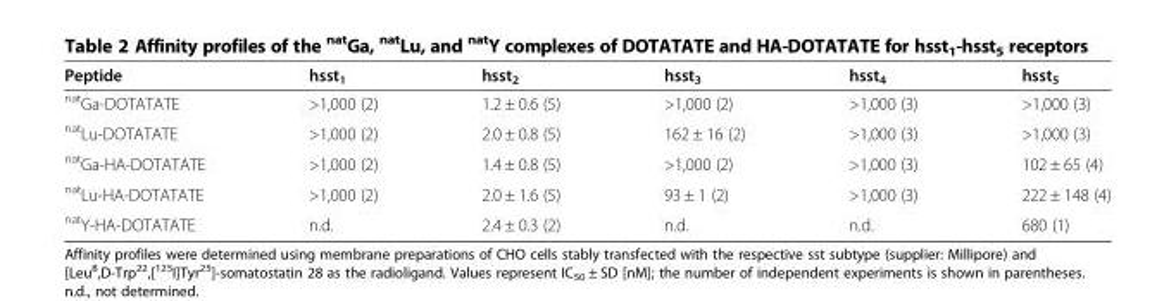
<table><thead><tr><td>Peptide</td><td>hsst<sub>1</sub></td><td>hsst<sub>2</sub></td><td>hsst<sub>3</sub></td><td>hsst<sub>4</sub></td><td>hsst<sub>5</sub></td></tr></thead><tbody><tr><td><sup>nat</sup>Ga-DOTATATE</td><td>&gt;1,000 (2)</td><td>1.2 ± 0.6 (5)</td><td>&gt;1,000 (2)</td><td>&gt;1,000 (3)</td><td>&gt;1,000 (3)</td></tr><tr><td><sup>nat</sup>Lu-DOTATATE</td><td>&gt;1,000 (2)</td><td>2.0 ± 0.8 (5)</td><td>162 ± 16 (2)</td><td>&gt;1,000 (3)</td><td>&gt;1,000 (3)</td></tr><tr><td><sup>nat</sup>Ga-HA-DOTATATE</td><td>&gt;1,000 (2)</td><td>1.4 ± 0.8 (5)</td><td>&gt;1,000 (2)</td><td>&gt;1,000 (3)</td><td>102 ± 65 (4)</td></tr><tr><td><sup>nat</sup>Lu-HA-DOTATATE</td><td>&gt;1,000 (2)</td><td>2.0 ± 1.6 (5)</td><td>93 ± 1 (2)</td><td>&gt;1,000 (3)</td><td>222 ± 148 (4)</td></tr><tr><td><sup>nat</sup>Y-HA-DOTATATE</td><td>n.d.</td><td>2.4 ± 0.3 (2)</td><td>n.d.</td><td>n.d.</td><td>680 (1)</td></tr></tbody></table>